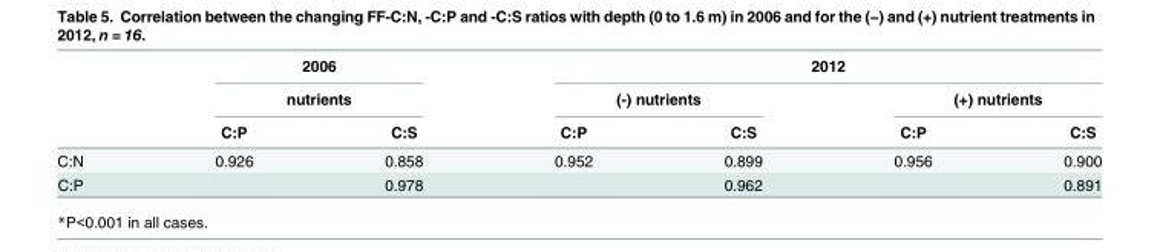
<table><thead><tr><td rowspan="3"></td><td rowspan="2" colspan="2">2006 nutrients</td><td colspan="4">2012</td></tr><tr><td colspan="2">(-) nutrients</td><td colspan="2">(+) nutrients</td></tr><tr><td>C:P</td><td>C:S</td><td>C:P</td><td>C:S</td><td>C:P</td><td>C:S</td></tr></thead><tbody><tr><td>C:N</td><td>0.926</td><td>0.858</td><td>0.952</td><td>0.899</td><td>0.956</td><td>0.900</td></tr><tr><td>C:P</td><td></td><td>0.978</td><td></td><td>0.962</td><td></td><td>0.891</td></tr></tbody></table>